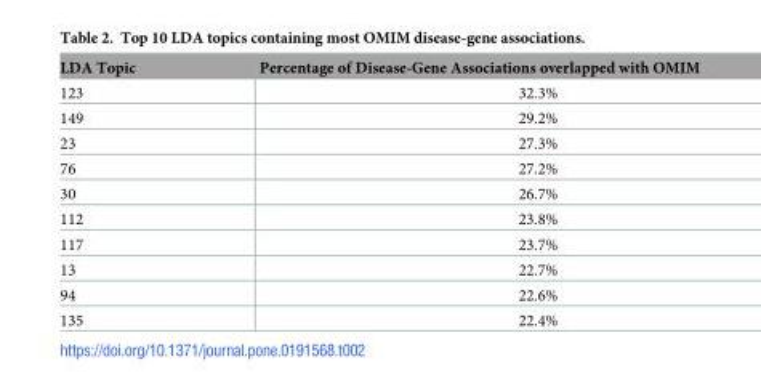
<table><thead><tr><td>LDA Topic</td><td>Percentage of Disease-Gene Associations overlapped with OMIM</td></tr></thead><tbody><tr><td>123</td><td>32.3%</td></tr><tr><td>149</td><td>29.2%</td></tr><tr><td>23</td><td>27.3%</td></tr><tr><td>76</td><td>27.2%</td></tr><tr><td>30</td><td>26.7%</td></tr><tr><td>112</td><td>23.8%</td></tr><tr><td>117</td><td>23.7%</td></tr><tr><td>13</td><td>22.7%</td></tr><tr><td>94</td><td>22.6%</td></tr><tr><td>135</td><td>22.4%</td></tr></tbody></table>